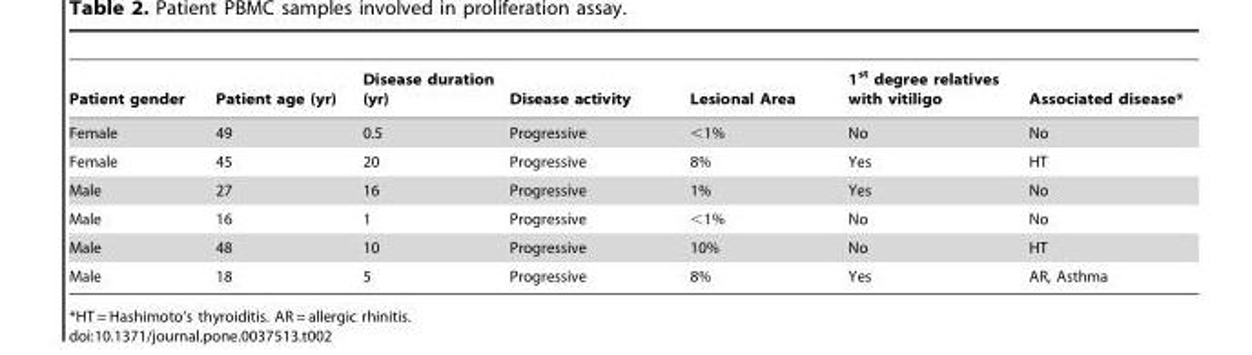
<table><thead><tr><td>Patient gender</td><td>Patient age (yr)</td><td>Disease duration (yr)</td><td>Disease activity</td><td>Lesional Area</td><td>1<sup>st</sup> degree relatives with vitiligo</td><td>Associated disease*</td></tr></thead><tbody><tr><td>Female</td><td>49</td><td>0.5</td><td>Progressive</td><td>&lt;1%</td><td>No</td><td>No</td></tr><tr><td>Female</td><td>45</td><td>20</td><td>Progressive</td><td>8%</td><td>Yes</td><td>HT</td></tr><tr><td>Male</td><td>27</td><td>16</td><td>Progressive</td><td>1%</td><td>Yes</td><td>No</td></tr><tr><td>Male</td><td>16</td><td>1</td><td>Progressive</td><td>&lt;1%</td><td>No</td><td>No</td></tr><tr><td>Male</td><td>48</td><td>10</td><td>Progressive</td><td>10%</td><td>No</td><td>HT</td></tr><tr><td>Male</td><td>18</td><td>5</td><td>Progressive</td><td>8%</td><td>Yes</td><td>AR, Asthma</td></tr></tbody></table>